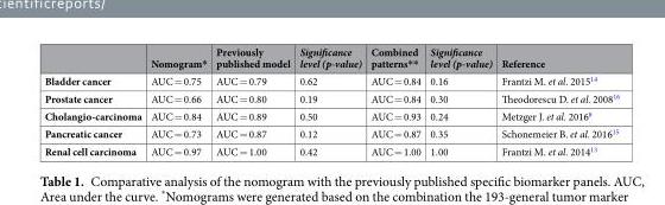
<table><thead><tr><td></td><td>Nomogram*</td><td>Previously published model</td><td>Significance level (p-value)</td><td>Combined patterns**</td><td>Significance level (p-value)</td><td>Reference</td></tr></thead><tbody><tr><td>Bladder cancer</td><td>AUC = 0.75</td><td>AUC = 0.79</td><td>0.62</td><td>AUC = 0.84</td><td>0.16</td><td>Frantzi M. et al. 2015<sup>14</sup></td></tr><tr><td>Prostate cancer</td><td>AUC = 0.66</td><td>AUC = 0.80</td><td>0.19</td><td>AUC = 0.84</td><td>0.30</td><td>Theodorescu D. et al. 2008<sup>16</sup></td></tr><tr><td>Cholangio-carcinoma</td><td>AUC = 0.84</td><td>AUC = 0.89</td><td>0.50</td><td>AUC = 0.93</td><td>0.24</td><td>Metzger J. et al. 2016<sup>8</sup></td></tr><tr><td>Pancreatic cancer</td><td>AUC = 0.73</td><td>AUC = 0.87</td><td>0.12</td><td>AUC = 0.87</td><td>0.35</td><td>Schonemeier B. et al. 2016<sup>15</sup></td></tr><tr><td>Renal cell carcinoma</td><td>AUC = 0.97</td><td>AUC = 1.00</td><td>0.42</td><td>AUC = 1.00</td><td>1.00</td><td>Frantzi M. et al. 2014<sup>13</sup></td></tr></tbody></table>